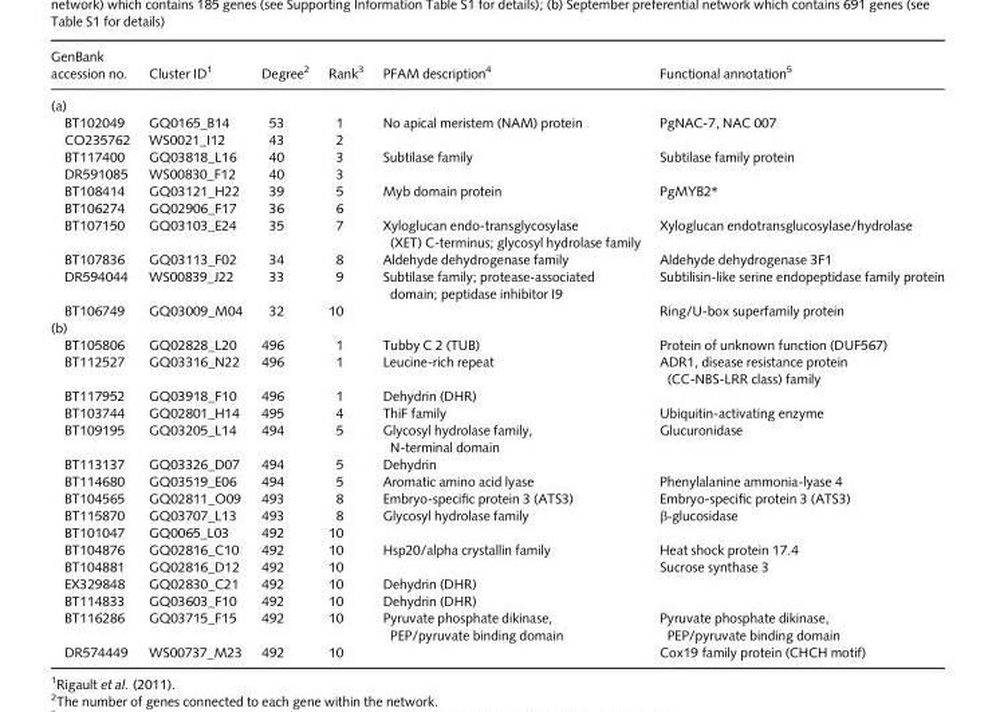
<table><thead><tr><td>GenBank accession no.</td><td>Cluster ID1</td><td>Degree2</td><td>Rank3</td><td>PFAM description4</td><td>Functional annotation5</td></tr></thead><tbody><tr><td colspan="6">(a)</td></tr><tr><td>BT102049</td><td>GQ0165_B14</td><td>53</td><td>1</td><td>No apical meristem (NAM) protein</td><td>PgNAC-7, NAC 007</td></tr><tr><td>CO235762</td><td>WS0021_I12</td><td>43</td><td>2</td><td></td><td></td></tr><tr><td>BT117400</td><td>GQ03818_L16</td><td>40</td><td>3</td><td>Subtilase family</td><td>Subtilase family protein</td></tr><tr><td>DR591085</td><td>WS00830_F12</td><td>40</td><td>3</td><td></td><td></td></tr><tr><td>BT108414</td><td>GQ03121_H22</td><td>39</td><td>5</td><td>Myb domain protein</td><td>PgMYB2*</td></tr><tr><td>BT106274</td><td>GQ02906_F17</td><td>36</td><td>6</td><td></td><td></td></tr><tr><td>BT107150</td><td>GQ03103_E24</td><td>35</td><td>7</td><td>Xyloglucan endo-transglycosylase (XET) C-terminus; glycosyl hydrolase family</td><td>Xyloglucan endotransglucosylase/hydrolase</td></tr><tr><td>BT107836</td><td>GQ03113_F02</td><td>34</td><td>8</td><td>Aldehyde dehydrogenase family</td><td>Aldehyde dehydrogenase 3F1</td></tr><tr><td>DR594044</td><td>WS00839_J22</td><td>33</td><td>9</td><td>Subtilase family; protease-associated domain; peptidase inhibitor I9</td><td>Subtilisin-like serine endopeptidase family protein</td></tr><tr><td>BT106749</td><td>GQ03009_M04</td><td>32</td><td>10</td><td></td><td>Ring/U-box superfamily protein</td></tr><tr><td colspan="6">(b)</td></tr><tr><td>BT105806</td><td>GQ02828_L20</td><td>496</td><td>1</td><td>Tubby C 2 (TUB)</td><td>Protein of unknown function (DUF567)</td></tr><tr><td>BT112527</td><td>GQ03316_N22</td><td>496</td><td>1</td><td>Leucine-rich repeat</td><td>ADR1, disease resistance protein (CC-NBS-LRR class) family</td></tr><tr><td>BT117952</td><td>GQ03918_F10</td><td>496</td><td>1</td><td>Dehydrin (DHR)</td><td></td></tr><tr><td>BT103744</td><td>GQ02801_H14</td><td>495</td><td>4</td><td>ThiF family</td><td>Ubiquitin-activating enzyme</td></tr><tr><td>BT109195</td><td>GQ03205_L14</td><td>494</td><td>5</td><td>Glycosyl hydrolase family, N-terminal domain</td><td>Glucuronidase</td></tr><tr><td>BT113137</td><td>GQ03326_D07</td><td>494</td><td>5</td><td>Dehydrin</td><td></td></tr><tr><td>BT114680</td><td>GQ03519_E06</td><td>494</td><td>5</td><td>Aromatic amino acid lyase</td><td>Phenylalanine ammonia-lyase 4</td></tr><tr><td>BT104565</td><td>GQ02811_O09</td><td>493</td><td>8</td><td>Embryo-specific protein 3 (ATS3)</td><td>Embryo-specific protein 3 (ATS3)</td></tr><tr><td>BT115870</td><td>GQ03707_L13</td><td>493</td><td>8</td><td>Glycosyl hydrolase family</td><td>β-glucosidase</td></tr><tr><td>BT101047</td><td>GQ0065_L03</td><td>492</td><td>10</td><td></td><td></td></tr><tr><td>BT104876</td><td>GQ02816_C10</td><td>492</td><td>10</td><td>Hsp20/alpha crystallin family</td><td>Heat shock protein 17.4</td></tr><tr><td>BT104881</td><td>GQ02816_D12</td><td>492</td><td>10</td><td></td><td>Sucrose synthase 3</td></tr><tr><td>EX329848</td><td>GQ02830_C21</td><td>492</td><td>10</td><td>Dehydrin (DHR)</td><td></td></tr><tr><td>BT114833</td><td>GQ03603_F10</td><td>492</td><td>10</td><td>Dehydrin (DHR)</td><td></td></tr><tr><td>BT116286</td><td>GQ03715_F15</td><td>492</td><td>10</td><td>Pyruvate phosphate dikinase, PEP/pyruvate binding domain</td><td>Pyruvate phosphate dikinase, PEP/pyruvate binding domain</td></tr><tr><td>DR574449</td><td>WS00737_M23</td><td>492</td><td>10</td><td></td><td>Cox19 family protein (CHCH motif)</td></tr></tbody></table>